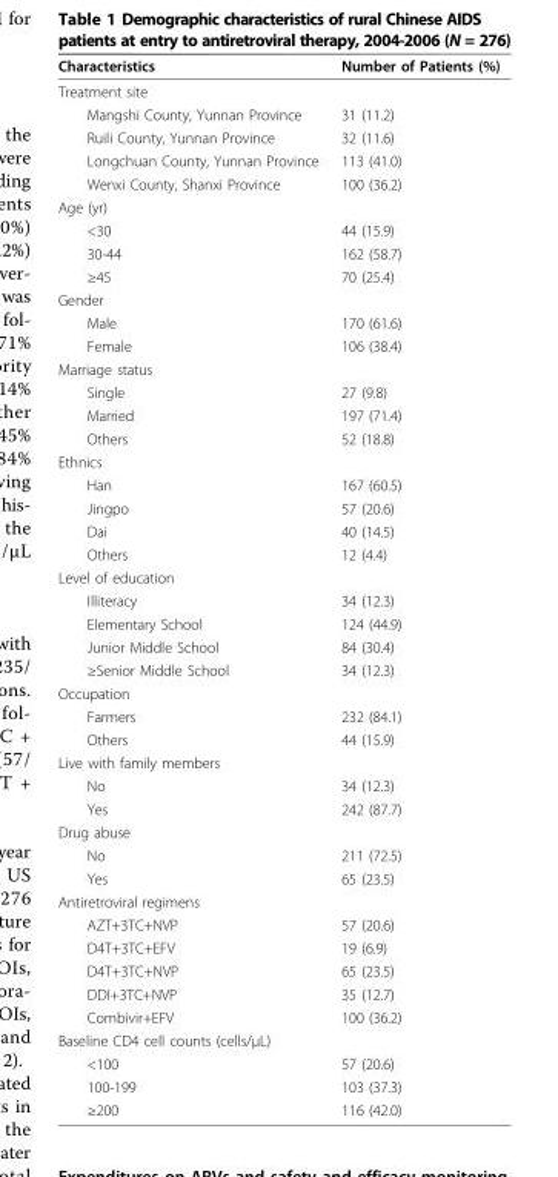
<table><thead><tr><td>Characteristics</td><td>Number of Patients (%)</td></tr></thead><tbody><tr><td colspan="2">Treatment site</td></tr><tr><td>Mangshi County, Yunnan Province</td><td>31 (11.2)</td></tr><tr><td>Ruili County, Yunnan Province</td><td>32 (11.6)</td></tr><tr><td>Longchuan County, Yunnan Province</td><td>113 (41.0)</td></tr><tr><td>Wenxi County, Shanxi Province</td><td>100 (36.2)</td></tr><tr><td colspan="2">Age (yr)</td></tr><tr><td>&lt;30</td><td>44 (15.9)</td></tr><tr><td>30-44</td><td>162 (58.7)</td></tr><tr><td>≥45</td><td>70 (25.4)</td></tr><tr><td colspan="2">Gender</td></tr><tr><td>Male</td><td>170 (61.6)</td></tr><tr><td>Female</td><td>106 (38.4)</td></tr><tr><td colspan="2">Marriage status</td></tr><tr><td>Single</td><td>27 (9.8)</td></tr><tr><td>Married</td><td>197 (71.4)</td></tr><tr><td>Others</td><td>52 (18.8)</td></tr><tr><td colspan="2">Ethnics</td></tr><tr><td>Han</td><td>167 (60.5)</td></tr><tr><td>Jingpo</td><td>57 (20.6)</td></tr><tr><td>Dai</td><td>40 (14.5)</td></tr><tr><td>Others</td><td>12 (4.4)</td></tr><tr><td colspan="2">Level of education</td></tr><tr><td>Illiteracy</td><td>34 (12.3)</td></tr><tr><td>Elementary School</td><td>124 (44.9)</td></tr><tr><td>Junior Middle School</td><td>84 (30.4)</td></tr><tr><td>≥Senior Middle School</td><td>34 (12.3)</td></tr><tr><td colspan="2">Occupation</td></tr><tr><td>Farmers</td><td>232 (84.1)</td></tr><tr><td>Others</td><td>44 (15.9)</td></tr><tr><td colspan="2">Live with family members</td></tr><tr><td>No</td><td>34 (12.3)</td></tr><tr><td>Yes</td><td>242 (87.7)</td></tr><tr><td colspan="2">Drug abuse</td></tr><tr><td>No</td><td>211 (72.5)</td></tr><tr><td>Yes</td><td>65 (23.5)</td></tr><tr><td colspan="2">Antiretroviral regimens</td></tr><tr><td>AZT+3TC+NVP</td><td>57 (20.6)</td></tr><tr><td>D4T+3TC+EFV</td><td>19 (6.9)</td></tr><tr><td>D4T+3TC+NVP</td><td>65 (23.5)</td></tr><tr><td>DDI+3TC+NVP</td><td>35 (12.7)</td></tr><tr><td>Combivir+EFV</td><td>100 (36.2)</td></tr><tr><td colspan="2">Baseline CD4 cell counts (cells/μL)</td></tr><tr><td>&lt;100</td><td>57 (20.6)</td></tr><tr><td>100-199</td><td>103 (37.3)</td></tr><tr><td>≥200</td><td>116 (42.0)</td></tr></tbody></table>